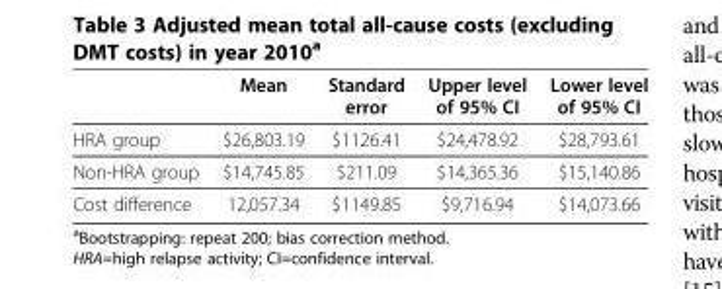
<table><thead><tr><td></td><td>Mean</td><td>Standard error</td><td>Upper level of 95% CI</td><td>Lower level of 95% CI</td></tr></thead><tbody><tr><td>HRA group</td><td>$26,803.19</td><td>$1126.41</td><td>$24,478.92</td><td>$28,793.61</td></tr><tr><td>Non-HRA group</td><td>$14,745.85</td><td>$211.09</td><td>$14,365.36</td><td>$15,140.86</td></tr><tr><td>Cost difference</td><td>12,057.34</td><td>$1149.85</td><td>$9,716.94</td><td>$14,073.66</td></tr></tbody></table>